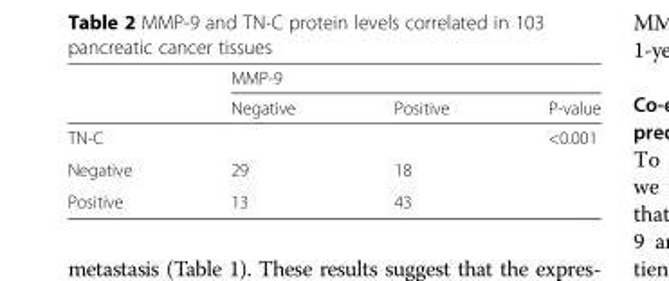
<table><thead><tr><td rowspan="2"></td><td colspan="3">MMP-9</td></tr><tr><td>Negative</td><td>Positive</td><td>P-value</td></tr></thead><tbody><tr><td>TN-C</td><td></td><td></td><td>&lt;0.001</td></tr><tr><td>Negative</td><td>29</td><td>18</td><td></td></tr><tr><td>Positive</td><td>13</td><td>43</td><td></td></tr></tbody></table>